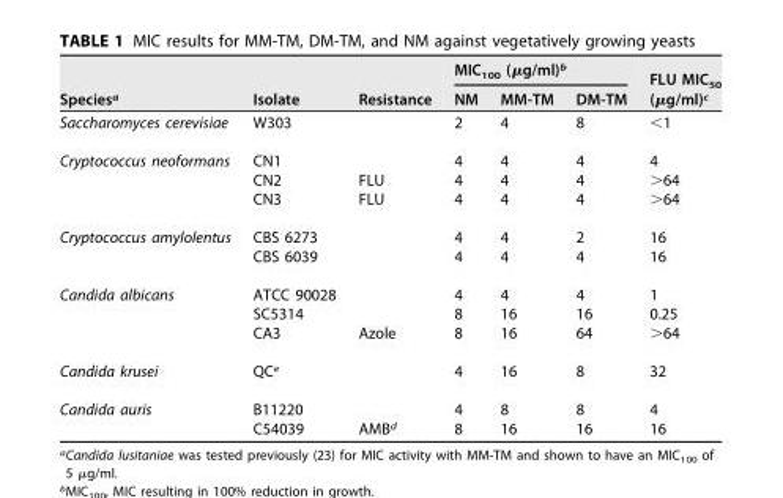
<table><thead><tr><td rowspan="2">Speciesa</td><td rowspan="2">Isolate</td><td rowspan="2">Resistance</td><td colspan="3">MIC100 (µg/ml)b</td><td rowspan="2">FLU MIC50 (µg/ml)c</td></tr><tr><td>NM</td><td>MM-TM</td><td>DM-TM</td></tr></thead><tbody><tr><td>Saccharomyces cerevisiae</td><td>W303</td><td></td><td>2</td><td>4</td><td>8</td><td>&lt;1</td></tr><tr><td rowspan="3">Cryptococcus neoformans</td><td>CN1</td><td></td><td>4</td><td>4</td><td>4</td><td>4</td></tr><tr><td>CN2</td><td>FLU</td><td>4</td><td>4</td><td>4</td><td>&gt;64</td></tr><tr><td>CN3</td><td>FLU</td><td>4</td><td>4</td><td>4</td><td>&gt;64</td></tr><tr><td rowspan="2">Cryptococcus amylolentus</td><td>CBS 6273</td><td></td><td>4</td><td>4</td><td>2</td><td>16</td></tr><tr><td>CBS 6039</td><td></td><td>4</td><td>4</td><td>4</td><td>16</td></tr><tr><td rowspan="3">Candida albicans</td><td>ATCC 90028</td><td></td><td>4</td><td>4</td><td>4</td><td>1</td></tr><tr><td>SC5314</td><td></td><td>8</td><td>16</td><td>16</td><td>0.25</td></tr><tr><td>CA3</td><td>Azole</td><td>8</td><td>16</td><td>64</td><td>&gt;64</td></tr><tr><td>Candida krusei</td><td>QCe</td><td></td><td>4</td><td>16</td><td>8</td><td>32</td></tr><tr><td rowspan="2">Candida auris</td><td>B11220</td><td></td><td>4</td><td>8</td><td>8</td><td>4</td></tr><tr><td>C54039</td><td>AMBd</td><td>8</td><td>16</td><td>16</td><td>16</td></tr></tbody></table>